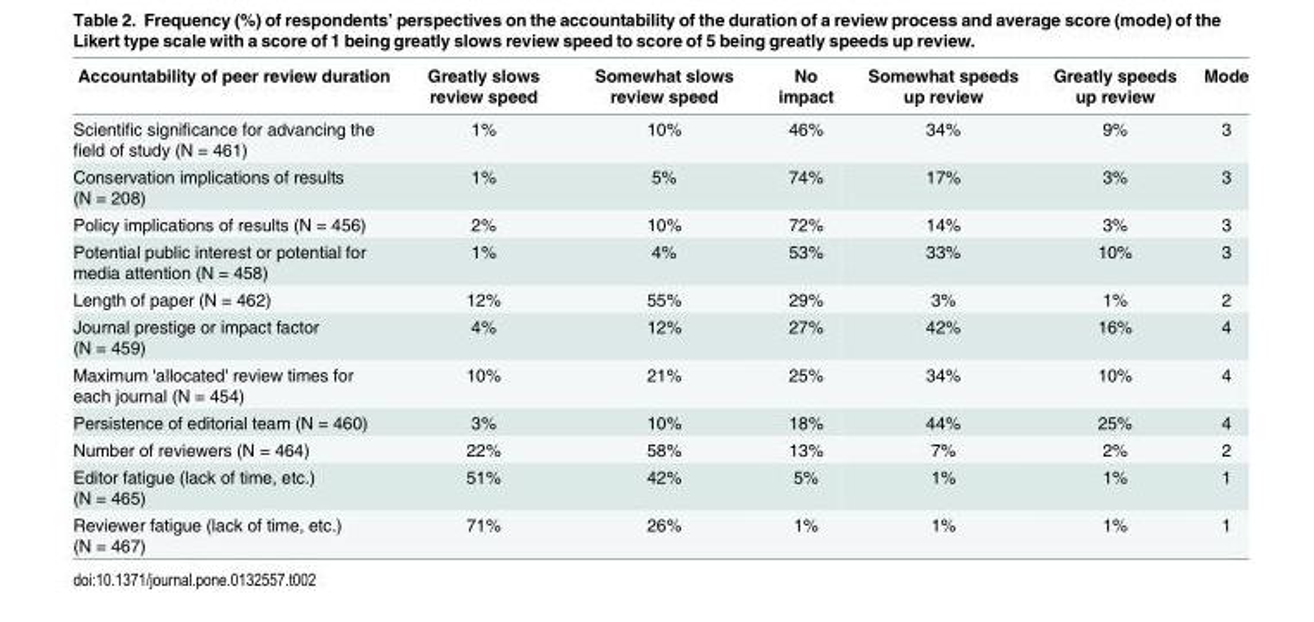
<table><thead><tr><td>Accountability of peer review duration</td><td>Greatly slows review speed</td><td>Somewhat slows review speed</td><td>No impact</td><td>Somewhat speeds up review</td><td>Greatly speeds up review</td><td>Mode</td></tr></thead><tbody><tr><td>Scientific significance for advancing the field of study (N = 461)</td><td>1%</td><td>10%</td><td>46%</td><td>34%</td><td>9%</td><td>3</td></tr><tr><td>Conservation implications of results (N = 208)</td><td>1%</td><td>5%</td><td>74%</td><td>17%</td><td>3%</td><td>3</td></tr><tr><td>Policy implications of results (N = 456)</td><td>2%</td><td>10%</td><td>72%</td><td>14%</td><td>3%</td><td>3</td></tr><tr><td>Potential public interest or potential for media attention (N = 458)</td><td>1%</td><td>4%</td><td>53%</td><td>33%</td><td>10%</td><td>3</td></tr><tr><td>Length of paper (N = 462)</td><td>12%</td><td>55%</td><td>29%</td><td>3%</td><td>1%</td><td>2</td></tr><tr><td>Journal prestige or impact factor (N = 459)</td><td>4%</td><td>12%</td><td>27%</td><td>42%</td><td>16%</td><td>4</td></tr><tr><td>Maximum &#x27;allocated&#x27; review times for each journal (N = 454)</td><td>10%</td><td>21%</td><td>25%</td><td>34%</td><td>10%</td><td>4</td></tr><tr><td>Persistence of editorial team (N = 460)</td><td>3%</td><td>10%</td><td>18%</td><td>44%</td><td>25%</td><td>4</td></tr><tr><td>Number of reviewers (N = 464)</td><td>22%</td><td>58%</td><td>13%</td><td>7%</td><td>2%</td><td>2</td></tr><tr><td>Editor fatigue (lack of time, etc.) (N = 465)</td><td>51%</td><td>42%</td><td>5%</td><td>1%</td><td>1%</td><td>1</td></tr><tr><td>Reviewer fatigue (lack of time, etc.) (N = 467)</td><td>71%</td><td>26%</td><td>1%</td><td>1%</td><td>1%</td><td>1</td></tr></tbody></table>